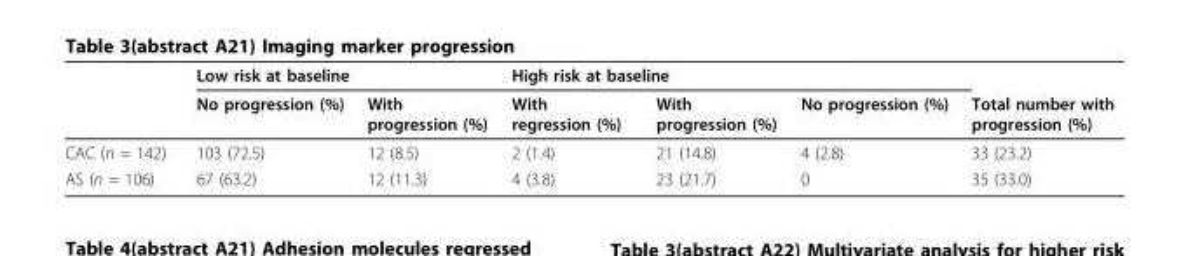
<table><thead><tr><td rowspan="2"></td><td colspan="2">Low risk at baseline</td><td colspan="3">High risk at baseline</td><td rowspan="2">Total number with progression (%)</td></tr><tr><td>No progression (%)</td><td>With progression (%)</td><td>With regression (%)</td><td>With progression (%)</td><td>No progression (%)</td></tr></thead><tbody><tr><td>CAC (n = 142)</td><td>103 (72.5)</td><td>12 (8.5)</td><td>2 (1.4)</td><td>21 (14.8)</td><td>4 (2.8)</td><td>33 (23.2)</td></tr><tr><td>AS (n = 106)</td><td>67 (63.2)</td><td>12 (11.3)</td><td>4 (3.8)</td><td>23 (21.7)</td><td>0</td><td>35 (33.0)</td></tr></tbody></table>